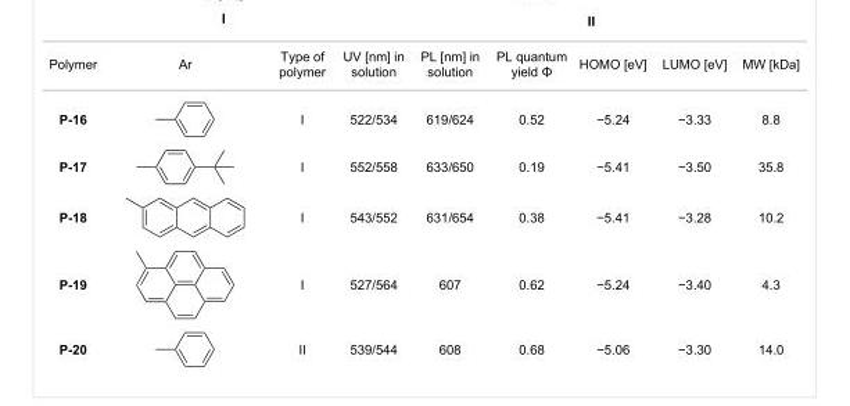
<table><tbody><tr><td>Polymer</td><td>Ar</td><td>Type of polymer</td><td>UV [nm] in solution</td><td>PL [nm] in solution</td><td>PL quantum yield Φ</td><td>HOMO [eV]</td><td>LUMO [eV]</td><td>MW [kDa]</td></tr><tr><td>P-16</td><td></td><td>I</td><td>522/534</td><td>619/624</td><td>0.52</td><td>−5.24</td><td>−3.33</td><td>8.8</td></tr><tr><td>P-17</td><td></td><td>I</td><td>552/558</td><td>633/650</td><td>0.19</td><td>−5.41</td><td>−3.50</td><td>35.8</td></tr><tr><td>P-18</td><td></td><td>I</td><td>543/552</td><td>631/654</td><td>0.38</td><td>−5.41</td><td>−3.28</td><td>10.2</td></tr><tr><td>P-19</td><td></td><td>I</td><td>527/564</td><td>607</td><td>0.62</td><td>−5.24</td><td>−3.40</td><td>4.3</td></tr><tr><td>P-20</td><td></td><td>II</td><td>539/544</td><td>608</td><td>0.68</td><td>−5.06</td><td>−3.30</td><td>14.0</td></tr></tbody></table>